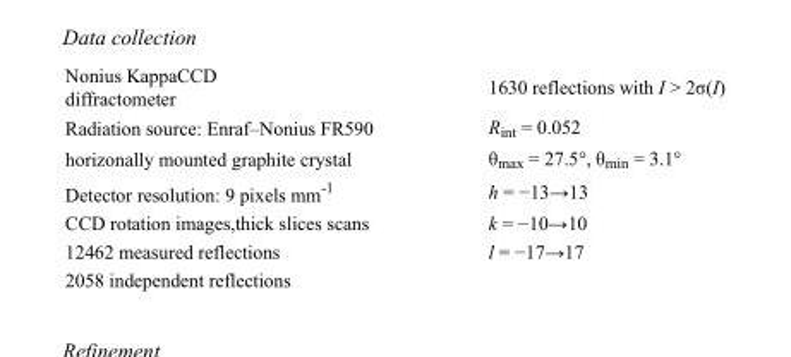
<table><tbody><tr><td>Nonius KappaCCD diffractometer</td><td>1630 reflections with I &gt; 2σ(I)</td></tr><tr><td>Radiation source: Enraf–Nonius FR590</td><td>R<sub>int</sub> = 0.052</td></tr><tr><td>horizonally mounted graphite crystal</td><td>θ<sub>max</sub> = 27.5°, θ<sub>min</sub> = 3.1°</td></tr><tr><td>Detector resolution: 9 pixels mm<sup>-1</sup></td><td>h = −13→13</td></tr><tr><td>CCD rotation images,thick slices scans</td><td>k = −10→10</td></tr><tr><td>12462 measured reflections</td><td>l = −17→17</td></tr><tr><td>2058 independent reflections</td><td></td></tr></tbody></table>